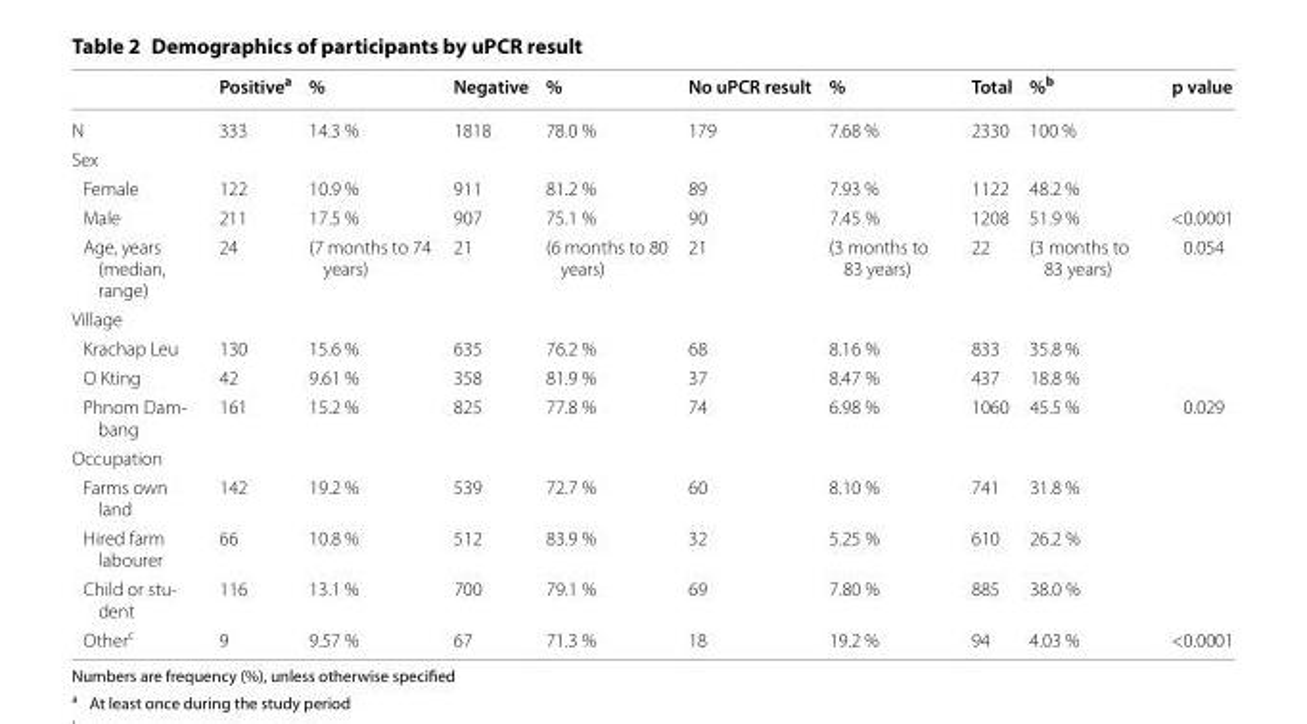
<table><thead><tr><td></td><td>Positive<sup>a</sup></td><td>%</td><td>Negative</td><td>%</td><td>No uPCR result</td><td>%</td><td>Total</td><td>%<sup>b</sup></td><td>p value</td></tr></thead><tbody><tr><td>N</td><td>333</td><td>14.3 %</td><td>1818</td><td>78.0 %</td><td>179</td><td>7.68 %</td><td>2330</td><td>100 %</td><td></td></tr><tr><td colspan="10">Sex</td></tr><tr><td>Female</td><td>122</td><td>10.9 %</td><td>911</td><td>81.2 %</td><td>89</td><td>7.93 %</td><td>1122</td><td>48.2 %</td><td></td></tr><tr><td>Male</td><td>211</td><td>17.5 %</td><td>907</td><td>75.1 %</td><td>90</td><td>7.45 %</td><td>1208</td><td>51.9 %</td><td>&lt;0.0001</td></tr><tr><td>Age, years (median, range)</td><td>24</td><td>(7 months to 74 years)</td><td>21</td><td>(6 months to 80 years)</td><td>21</td><td>(3 months to 83 years)</td><td>22</td><td>(3 months to 83 years)</td><td>0.054</td></tr><tr><td colspan="10">Village</td></tr><tr><td>Krachap Leu</td><td>130</td><td>15.6 %</td><td>635</td><td>76.2 %</td><td>68</td><td>8.16 %</td><td>833</td><td>35.8 %</td><td></td></tr><tr><td>O Kting</td><td>42</td><td>9.61 %</td><td>358</td><td>81.9 %</td><td>37</td><td>8.47 %</td><td>437</td><td>18.8 %</td><td></td></tr><tr><td>Phnom Dam- bang</td><td>161</td><td>15.2 %</td><td>825</td><td>77.8 %</td><td>74</td><td>6.98 %</td><td>1060</td><td>45.5 %</td><td>0.029</td></tr><tr><td colspan="10">Occupation</td></tr><tr><td>Farms own land</td><td>142</td><td>19.2 %</td><td>539</td><td>72.7 %</td><td>60</td><td>8.10 %</td><td>741</td><td>31.8 %</td><td></td></tr><tr><td>Hired farm labourer</td><td>66</td><td>10.8 %</td><td>512</td><td>83.9 %</td><td>32</td><td>5.25 %</td><td>610</td><td>26.2 %</td><td></td></tr><tr><td>Child or stu- dent</td><td>116</td><td>13.1 %</td><td>700</td><td>79.1 %</td><td>69</td><td>7.80 %</td><td>885</td><td>38.0 %</td><td></td></tr><tr><td>Other<sup>c</sup></td><td>9</td><td>9.57 %</td><td>67</td><td>71.3 %</td><td>18</td><td>19.2 %</td><td>94</td><td>4.03 %</td><td>&lt;0.0001</td></tr></tbody></table>